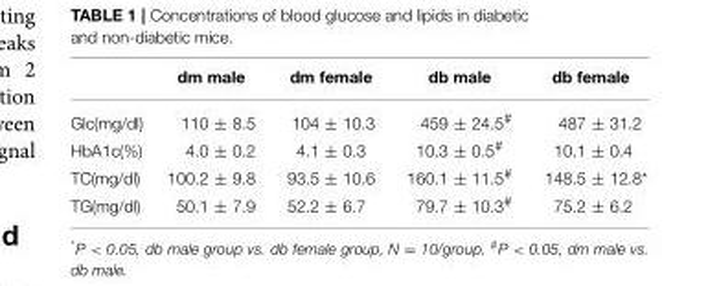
<table><thead><tr><td></td><td>dm male</td><td>dm female</td><td>db male</td><td>db female</td></tr></thead><tbody><tr><td>Glc(mg/dl)</td><td>110 ± 8.5</td><td>104 ± 10.3</td><td>459 ± 24.5<sup>#</sup></td><td>487 ± 31.2</td></tr><tr><td>HbA1c(%)</td><td>4.0 ± 0.2</td><td>4.1 ± 0.3</td><td>10.3 ± 0.5<sup>#</sup></td><td>10.1 ± 0.4</td></tr><tr><td>TC(mg/dl)</td><td>100.2 ± 9.8</td><td>93.5 ± 10.6</td><td>160.1 ± 11.5<sup>#</sup></td><td>148.5 ± 12.8*</td></tr><tr><td>TG(mg/dl)</td><td>50.1 ± 7.9</td><td>52.2 ± 6.7</td><td>79.7 ± 10.3<sup>#</sup></td><td>75.2 ± 6.2</td></tr></tbody></table>